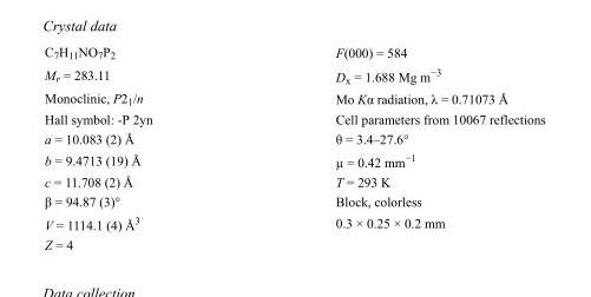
<table><tbody><tr><td>C<sub>7</sub>H<sub>11</sub>NO<sub>7</sub>P<sub>2</sub></td><td>F(000) = 584</td></tr><tr><td>M<sub>r</sub> = 283.11</td><td>D<sub>x</sub> = 1.688 Mg m<sup>−3</sup></td></tr><tr><td>Monoclinic, P2<sub>1</sub>/n</td><td>Mo Kα radiation, λ = 0.71073 Å</td></tr><tr><td>Hall symbol: -P 2yn</td><td>Cell parameters from 10067 reflections</td></tr><tr><td>a = 10.083 (2) Å</td><td>θ = 3.4–27.6°</td></tr><tr><td>b = 9.4713 (19) Å</td><td>µ = 0.42 mm<sup>−1</sup></td></tr><tr><td>c = 11.708 (2) Å</td><td>T = 293 K</td></tr><tr><td>β = 94.87 (3)°</td><td>Block, colorless</td></tr><tr><td>V = 1114.1 (4) Å<sup>3</sup></td><td>0.3 × 0.25 × 0.2 mm</td></tr><tr><td>Z = 4</td><td></td></tr></tbody></table>